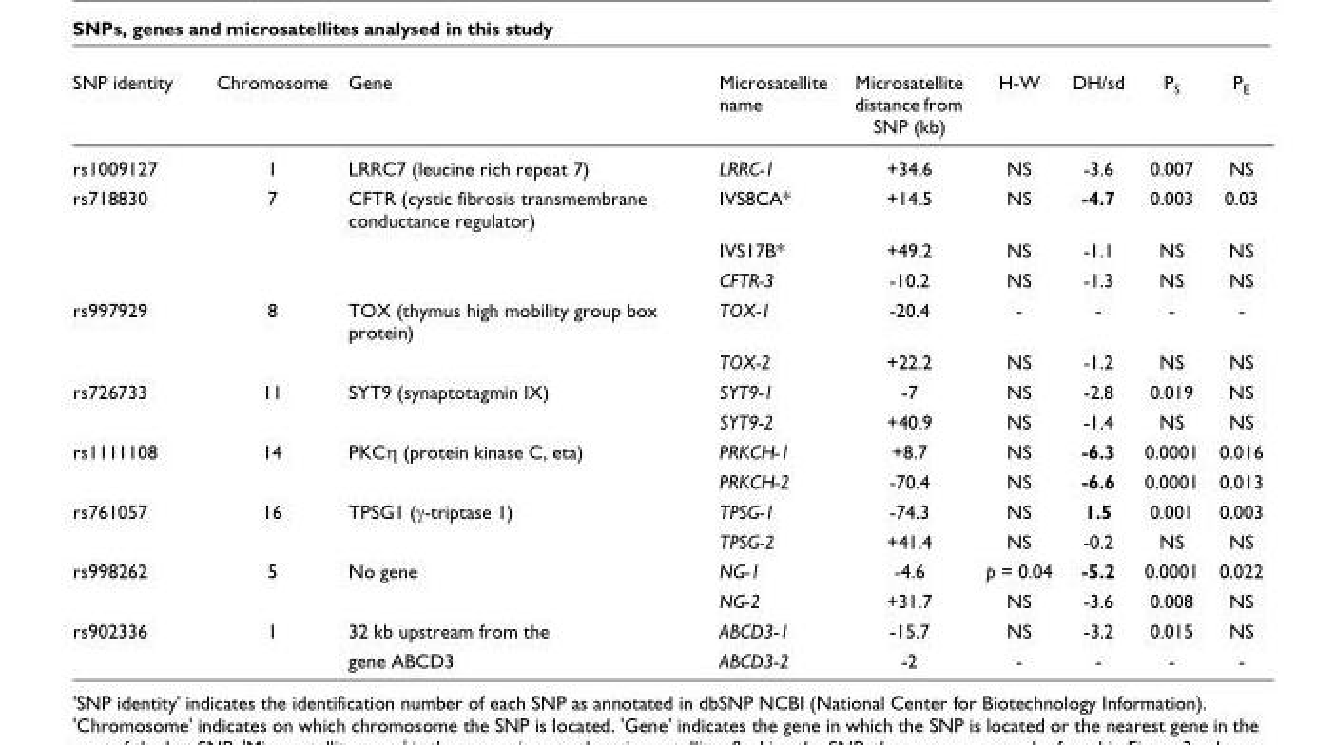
<table><thead><tr><td>SNP identity</td><td>Chromosome</td><td>Gene</td><td>Microsatellite name</td><td>Microsatellite distance from SNP (kb)</td><td>H-W</td><td>DH/sd</td><td>PS</td><td>PE</td></tr></thead><tbody><tr><td>rs1009127</td><td>1</td><td>LRRC7 (leucine rich repeat 7)</td><td>LRRC-1</td><td>+34.6</td><td>NS</td><td>-3.6</td><td>0.007</td><td>NS</td></tr><tr><td rowspan="3">rs718830</td><td>7</td><td>CFTR (cystic fibrosis transmembrane conductance regulator)</td><td>IVS8CA*</td><td>+14.5</td><td>NS</td><td>-4.7</td><td>0.003</td><td>0.03</td></tr><tr><td></td><td></td><td>IVS17B*</td><td>+49.2</td><td>NS</td><td>-1.1</td><td>NS</td><td>NS</td></tr><tr><td></td><td></td><td>CFTR-3</td><td>-10.2</td><td>NS</td><td>-1.3</td><td>NS</td><td>NS</td></tr><tr><td rowspan="2">rs997929</td><td>8</td><td>TOX (thymus high mobility group box protein)</td><td>TOX-1</td><td>-20.4</td><td>-</td><td>-</td><td>-</td><td>-</td></tr><tr><td></td><td></td><td>TOX-2</td><td>+22.2</td><td>NS</td><td>-1.2</td><td>NS</td><td>NS</td></tr><tr><td rowspan="2">rs726733</td><td>11</td><td>SYT9 (synaptotagmin IX)</td><td>SYT9-1</td><td>-7</td><td>NS</td><td>-2.8</td><td>0.019</td><td>NS</td></tr><tr><td></td><td></td><td>SYT9-2</td><td>+40.9</td><td>NS</td><td>-1.4</td><td>NS</td><td>NS</td></tr><tr><td rowspan="2">rs1111108</td><td>14</td><td>PKCη (protein kinase C, eta)</td><td>PRKCH-1</td><td>+8.7</td><td>NS</td><td>-6.3</td><td>0.0001</td><td>0.016</td></tr><tr><td></td><td></td><td>PRKCH-2</td><td>-70.4</td><td>NS</td><td>-6.6</td><td>0.0001</td><td>0.013</td></tr><tr><td rowspan="2">rs761057</td><td>16</td><td>TPSG1 (γ-triptase 1)</td><td>TPSG-1</td><td>-74.3</td><td>NS</td><td>1.5</td><td>0.001</td><td>0.003</td></tr><tr><td></td><td></td><td>TPSG-2</td><td>+41.4</td><td>NS</td><td>-0.2</td><td>NS</td><td>NS</td></tr><tr><td rowspan="2">rs998262</td><td>5</td><td>No gene</td><td>NG-1</td><td>-4.6</td><td>p = 0.04</td><td>-5.2</td><td>0.0001</td><td>0.022</td></tr><tr><td></td><td></td><td>NG-2</td><td>+31.7</td><td>NS</td><td>-3.6</td><td>0.008</td><td>NS</td></tr><tr><td rowspan="2">rs902336</td><td>1</td><td>32 kb upstream from the</td><td>ABCD3-1</td><td>-15.7</td><td>NS</td><td>-3.2</td><td>0.015</td><td>NS</td></tr><tr><td></td><td>gene ABCD3</td><td>ABCD3-2</td><td>-2</td><td>-</td><td>-</td><td>-</td><td>-</td></tr></tbody></table>